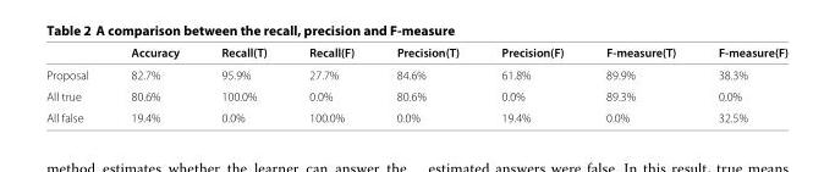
<table><thead><tr><td></td><td>Accuracy</td><td>Recall(T)</td><td>Recall(F)</td><td>Precision(T)</td><td>Precision(F)</td><td>F-measure(T)</td><td>F-measure(F)</td></tr></thead><tbody><tr><td>Proposal</td><td>82.7%</td><td>95.9%</td><td>27.7%</td><td>84.6%</td><td>61.8%</td><td>89.9%</td><td>38.3%</td></tr><tr><td>All true</td><td>80.6%</td><td>100.0%</td><td>0.0%</td><td>80.6%</td><td>0.0%</td><td>89.3%</td><td>0.0%</td></tr><tr><td>All false</td><td>19.4%</td><td>0.0%</td><td>100.0%</td><td>0.0%</td><td>19.4%</td><td>0.0%</td><td>32.5%</td></tr></tbody></table>